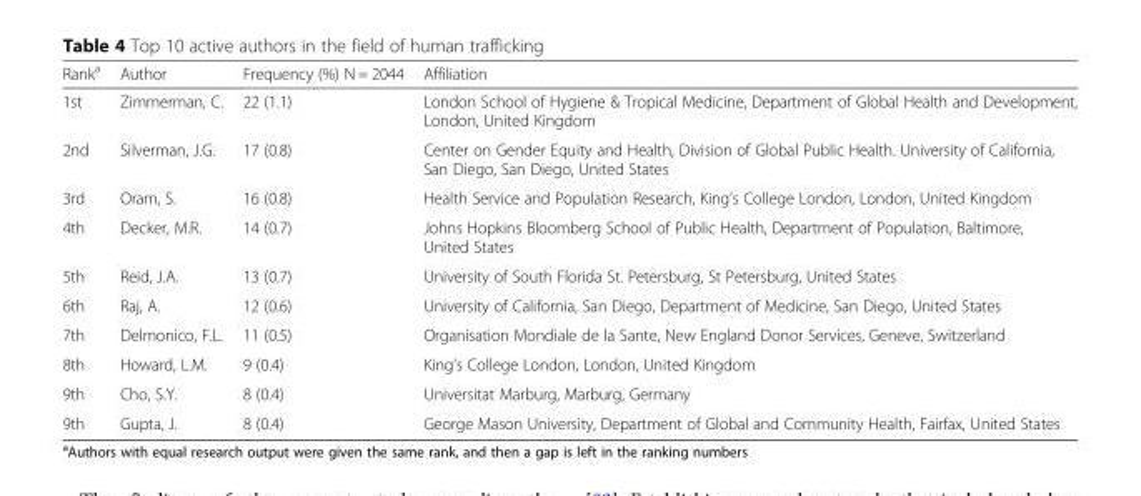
<table><thead><tr><td>Rank<sup>a</sup></td><td>Author</td><td>Frequency (%) N = 2044</td><td>Affiliation</td></tr></thead><tbody><tr><td>1st</td><td>Zimmerman, C.</td><td>22 (1.1)</td><td>London School of Hygiene &amp; Tropical Medicine, Department of Global Health and Development, London, United Kingdom</td></tr><tr><td>2nd</td><td>Silverman, J.G.</td><td>17 (0.8)</td><td>Center on Gender Equity and Health, Division of Global Public Health. University of California, San Diego, San Diego, United States</td></tr><tr><td>3rd</td><td>Oram, S.</td><td>16 (0.8)</td><td>Health Service and Population Research, King’s College London, London, United Kingdom</td></tr><tr><td>4th</td><td>Decker, M.R.</td><td>14 (0.7)</td><td>Johns Hopkins Bloomberg School of Public Health, Department of Population, Baltimore, United States</td></tr><tr><td>5th</td><td>Reid, J.A.</td><td>13 (0.7)</td><td>University of South Florida St. Petersburg, St Petersburg, United States</td></tr><tr><td>6th</td><td>Raj, A.</td><td>12 (0.6)</td><td>University of California, San Diego, Department of Medicine, San Diego, United States</td></tr><tr><td>7th</td><td>Delmonico, F.L.</td><td>11 (0.5)</td><td>Organisation Mondiale de la Sante, New England Donor Services, Geneve, Switzerland</td></tr><tr><td>8th</td><td>Howard, L.M.</td><td>9 (0.4)</td><td>King’s College London, London, United Kingdom</td></tr><tr><td>9th</td><td>Cho, S.Y.</td><td>8 (0.4)</td><td>Universitat Marburg, Marburg, Germany</td></tr><tr><td>9th</td><td>Gupta, J.</td><td>8 (0.4)</td><td>George Mason University, Department of Global and Community Health, Fairfax, United States</td></tr></tbody></table>